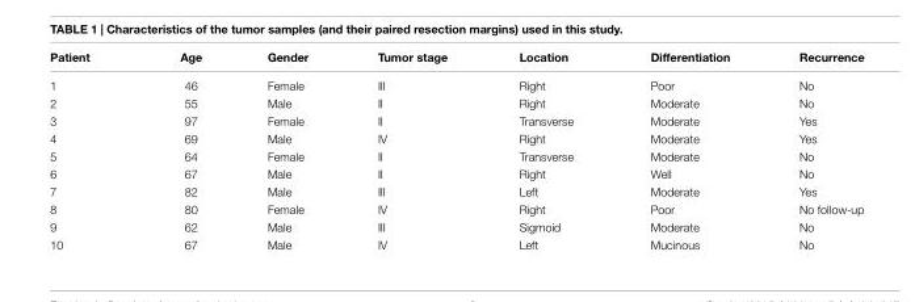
<table><thead><tr><td>Patient</td><td>age</td><td>gender</td><td>Tumor stage</td><td>location</td><td>Differentiation</td><td>recurrence</td></tr></thead><tbody><tr><td>1</td><td>46</td><td>Female</td><td>III</td><td>Right</td><td>Poor</td><td>No</td></tr><tr><td>2</td><td>55</td><td>Male</td><td>II</td><td>Right</td><td>Moderate</td><td>No</td></tr><tr><td>3</td><td>97</td><td>Female</td><td>II</td><td>Transverse</td><td>Moderate</td><td>Yes</td></tr><tr><td>4</td><td>69</td><td>Male</td><td>IV</td><td>Right</td><td>Moderate</td><td>Yes</td></tr><tr><td>5</td><td>64</td><td>Female</td><td>II</td><td>Transverse</td><td>Moderate</td><td>No</td></tr><tr><td>6</td><td>67</td><td>Male</td><td>II</td><td>Right</td><td>Well</td><td>No</td></tr><tr><td>7</td><td>82</td><td>Male</td><td>III</td><td>Left</td><td>Moderate</td><td>Yes</td></tr><tr><td>8</td><td>80</td><td>Female</td><td>IV</td><td>Right</td><td>Poor</td><td>No follow-up</td></tr><tr><td>9</td><td>62</td><td>Male</td><td>III</td><td>Sigmoid</td><td>Moderate</td><td>No</td></tr><tr><td>10</td><td>67</td><td>Male</td><td>IV</td><td>Left</td><td>Mucinous</td><td>No</td></tr></tbody></table>